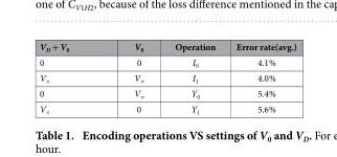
<table><thead><tr><td>V<sub>D</sub> + V<sub>0</sub></td><td>V<sub>0</sub></td><td>Operation</td><td>Error rate(avg.)</td></tr></thead><tbody><tr><td>0</td><td>0</td><td>I<sub>0</sub></td><td>4.1%</td></tr><tr><td>V<sub>π</sub></td><td>V<sub>π</sub></td><td>I<sub>1</sub></td><td>4.0%</td></tr><tr><td>0</td><td>V<sub>π</sub></td><td>Y<sub>0</sub></td><td>5.4%</td></tr><tr><td>V<sub>π</sub></td><td>0</td><td>Y<sub>1</sub></td><td>5.6%</td></tr></tbody></table>